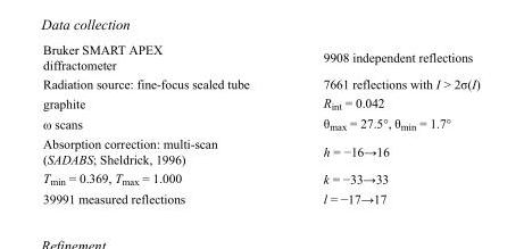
<table><tbody><tr><td>Bruker SMART APEX diffractometer</td><td>9908 independent reflections</td></tr><tr><td>Radiation source: fine-focus sealed tube</td><td>7661 reflections with I &gt; 2σ(I)</td></tr><tr><td>graphite</td><td>R<sub>int</sub> = 0.042</td></tr><tr><td>ω scans</td><td>θ<sub>max</sub> = 27.5°, θ<sub>min</sub> = 1.7°</td></tr><tr><td>Absorption correction: multi-scan (SADABS; Sheldrick, 1996)</td><td>h = −16→16</td></tr><tr><td>T<sub>min</sub> = 0.369, T<sub>max</sub> = 1.000</td><td>k = −33→33</td></tr><tr><td>39991 measured reflections</td><td>l = −17→17</td></tr></tbody></table>